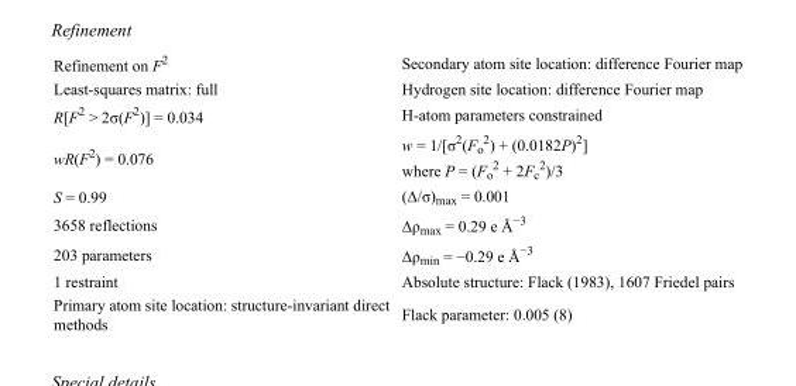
<table><tbody><tr><td>Refinement on F<sup>2</sup></td><td>Secondary atom site location: difference Fourier map</td></tr><tr><td>Least-squares matrix: full</td><td>Hydrogen site location: difference Fourier map</td></tr><tr><td>R[F<sup>2</sup> &gt; 2σ(F<sup>2</sup>)] = 0.034</td><td>H-atom parameters constrained</td></tr><tr><td>wR(F<sup>2</sup>) = 0.076</td><td>w = 1/[σ<sup>2</sup>(F<sub>o</sub> <sup>2</sup>) + (0.0182P)<sup>2</sup>] where P = (F<sub>o</sub> <sup>2</sup> + 2F<sub>c</sub> <sup>2</sup>)/3</td></tr><tr><td>S = 0.99</td><td>(Δ/σ)<sub>max</sub> = 0.001</td></tr><tr><td>3658 reflections</td><td>Δρ<sub>max</sub> = 0.29 e Å<sup>−3</sup></td></tr><tr><td>203 parameters</td><td>Δρ<sub>min</sub> = −0.29 e Å<sup>−3</sup></td></tr><tr><td>1 restraint</td><td>Absolute structure: Flack (1983), 1607 Friedel pairs</td></tr><tr><td>Primary atom site location: structure-invariant direct methods</td><td>Flack parameter: 0.005 (8)</td></tr></tbody></table>